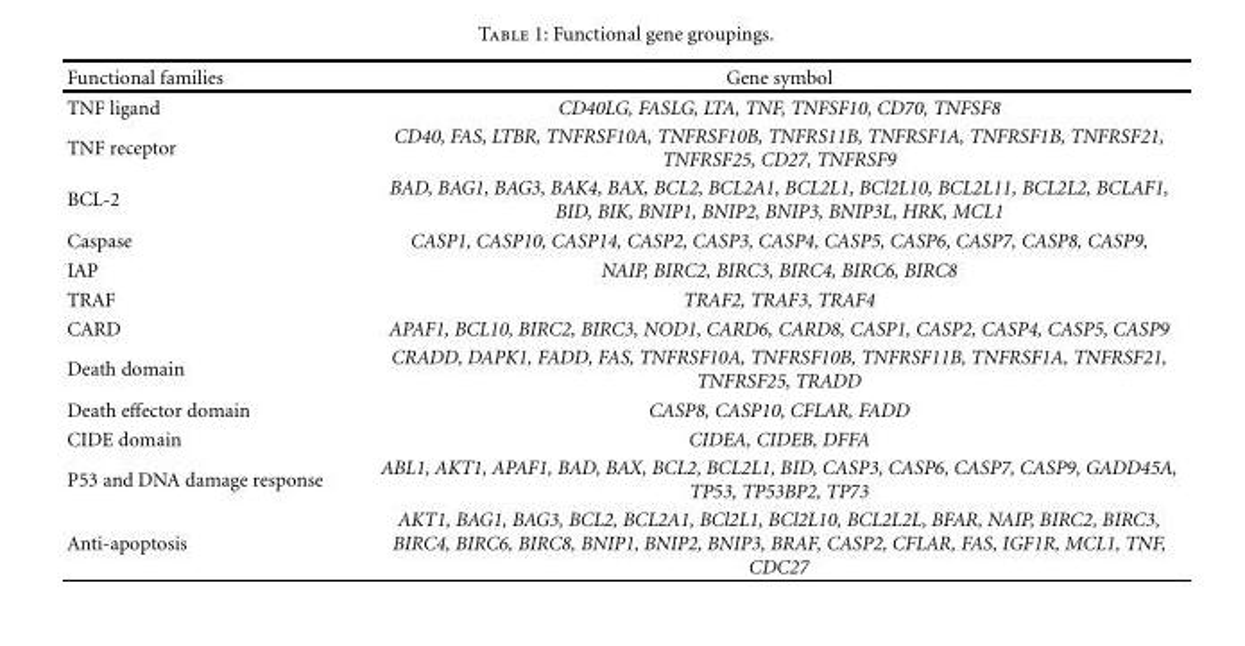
<table><thead><tr><td>Functional families</td><td>Gene symbol</td></tr></thead><tbody><tr><td>TNF ligand</td><td>CD40LG, FASLG, LTA, TNF, TNFSF10, CD70, TNFSF8</td></tr><tr><td>TNF receptor</td><td>CD40, FAS, LTBR, TNFRSF10A, TNFRSF10B, TNFRS11B, TNFRSF1A, TNFRSF1B, TNFRSF21, TNFRSF25, CD27, TNFRSF9</td></tr><tr><td>BCL-2</td><td>BAD, BAG1, BAG3, BAK4, BAX, BCL2, BCL2A1, BCL2L1, BCl2L10, BCL2L11, BCL2L2, BCLAF1, BID, BIK, BNIP1, BNIP2, BNIP3, BNIP3L, HRK, MCL1</td></tr><tr><td>Caspase</td><td>CASP1, CASP10, CASP14, CASP2, CASP3, CASP4, CASP5, CASP6, CASP7, CASP8, CASP9,</td></tr><tr><td>IAP</td><td>NAIP, BIRC2, BIRC3, BIRC4, BIRC6, BIRC8</td></tr><tr><td>TRAF</td><td>TRAF2, TRAF3, TRAF4</td></tr><tr><td>CARD</td><td>APAF1, BCL10, BIRC2, BIRC3, NOD1, CARD6, CARD8, CASP1, CASP2, CASP4, CASP5, CASP9</td></tr><tr><td>Death domain</td><td>CRADD, DAPK1, FADD, FAS, TNFRSF10A, TNFRSF10B, TNFRSF11B, TNFRSF1A, TNFRSF21, TNFRSF25, TRADD</td></tr><tr><td>Death effector domain</td><td>CASP8, CASP10, CFLAR, FADD</td></tr><tr><td>CIDE domain</td><td>CIDEA, CIDEB, DFFA</td></tr><tr><td>P53 and DNA damage response</td><td>ABL1, AKT1, APAF1, BAD, BAX, BCL2, BCL2L1, BID, CASP3, CASP6, CASP7, CASP9, GADD45A, TP53, TP53BP2, TP73</td></tr><tr><td>Anti-apoptosis</td><td>AKT1, BAG1, BAG3, BCL2, BCL2A1, BCl2L1, BCl2L10, BCL2L2L, BFAR, NAIP, BIRC2, BIRC3, BIRC4, BIRC6, BIRC8, BNIP1, BNIP2, BNIP3, BRAF, CASP2, CFLAR, FAS, IGF1R, MCL1, TNF, CDC27</td></tr></tbody></table>